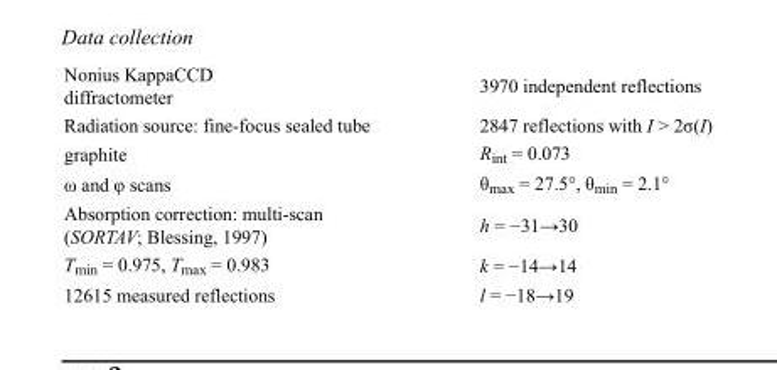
<table><tbody><tr><td>Nonius KappaCCD diffractometer</td><td>3970 independent reflections</td></tr><tr><td>Radiation source: fine-focus sealed tube</td><td>2847 reflections with I &gt; 2σ(I)</td></tr><tr><td>graphite</td><td>R<sub>int</sub> = 0.073</td></tr><tr><td>ω and φ scans</td><td>θ<sub>max</sub> = 27.5°, θ<sub>min</sub> = 2.1°</td></tr><tr><td>Absorption correction: multi-scan (SORTAV; Blessing, 1997)</td><td>h = −31→30</td></tr><tr><td>T<sub>min</sub> = 0.975, T<sub>max</sub> = 0.983</td><td>k = −14→14</td></tr><tr><td>12615 measured reflections</td><td>l = −18→19</td></tr></tbody></table>